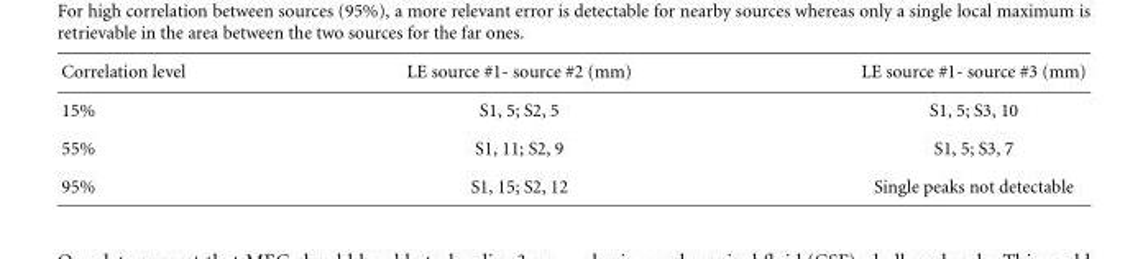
<table><thead><tr><td>Correlation level</td><td>LE source #1- source #2 (mm)</td><td>LE source #1- source #3 (mm)</td></tr></thead><tbody><tr><td>15%</td><td>S1, 5; S2, 5</td><td>S1, 5; S3, 10</td></tr><tr><td>55%</td><td>S1, 11; S2, 9</td><td>S1, 5; S3, 7</td></tr><tr><td>95%</td><td>S1, 15; S2, 12</td><td>Single peaks not detectable</td></tr></tbody></table>